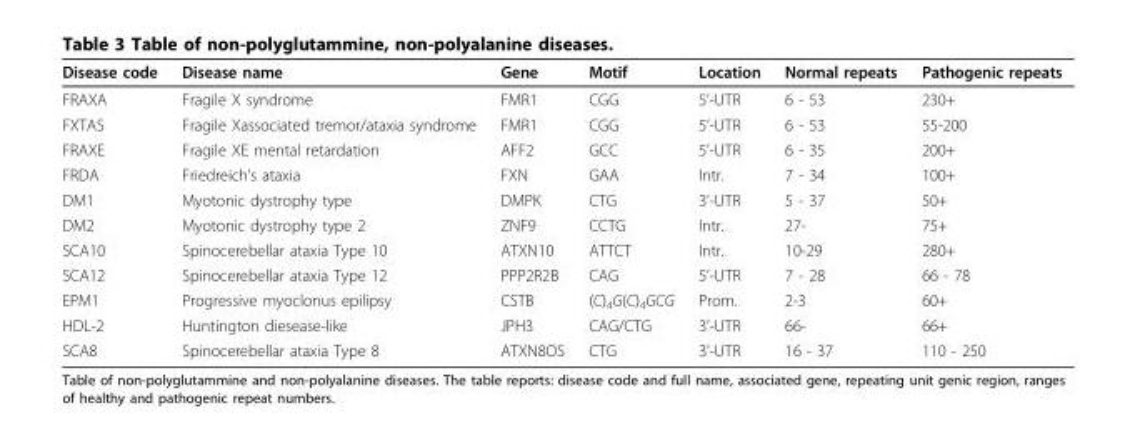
<table><thead><tr><td>Disease code</td><td>Disease name</td><td>Gene</td><td>Motif</td><td>Location</td><td>Normal repeats</td><td>Pathogenic repeats</td></tr></thead><tbody><tr><td>FRAXA</td><td>Fragile X syndrome</td><td>FMR1</td><td>CGG</td><td>5’-UTR</td><td>6 - 53</td><td>230+</td></tr><tr><td>FXTAS</td><td>Fragile Xassociated tremor/ataxia syndrome</td><td>FMR1</td><td>CGG</td><td>5’-UTR</td><td>6 - 53</td><td>55-200</td></tr><tr><td>FRAXE</td><td>Fragile XE mental retardation</td><td>AFF2</td><td>GCC</td><td>5’-UTR</td><td>6 - 35</td><td>200+</td></tr><tr><td>FRDA</td><td>Friedreich’s ataxia</td><td>FXN</td><td>GAA</td><td>Intr.</td><td>7 - 34</td><td>100+</td></tr><tr><td>DM1</td><td>Myotonic dystrophy type</td><td>DMPK</td><td>CTG</td><td>3’-UTR</td><td>5 - 37</td><td>50+</td></tr><tr><td>DM2</td><td>Myotonic dystrophy type 2</td><td>ZNF9</td><td>CCTG</td><td>Intr.</td><td>27-</td><td>75+</td></tr><tr><td>SCA10</td><td>Spinocerebellar ataxia Type 10</td><td>ATXN10</td><td>ATTCT</td><td>Intr.</td><td>10-29</td><td>280+</td></tr><tr><td>SCA12</td><td>Spinocerebellar ataxia Type 12</td><td>PPP2R2B</td><td>CAG</td><td>5’-UTR</td><td>7 - 28</td><td>66 - 78</td></tr><tr><td>EPM1</td><td>Progressive myoclonus epilipsy</td><td>CSTB</td><td>(C)<sub>4</sub>G(C)<sub>4</sub>GCG</td><td>Prom.</td><td>2-3</td><td>60+</td></tr><tr><td>HDL-2</td><td>Huntington diesease-like</td><td>JPH3</td><td>CAG/CTG</td><td>3’-UTR</td><td>66-</td><td>66+</td></tr><tr><td>SCA8</td><td>Spinocerebellar ataxia Type 8</td><td>ATXN8OS</td><td>CTG</td><td>3’-UTR</td><td>16 - 37</td><td>110 - 250</td></tr></tbody></table>